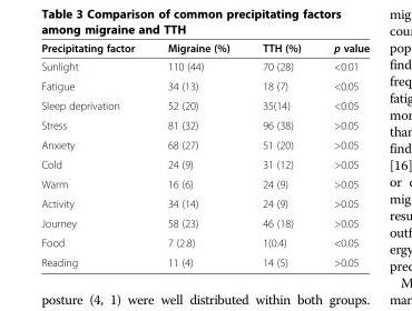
<table><thead><tr><td>Precipitating factor</td><td>Migraine (%)</td><td>TTH (%)</td><td>p value</td></tr></thead><tbody><tr><td>Sunlight</td><td>110 (44)</td><td>70 (28)</td><td>&lt;0.01</td></tr><tr><td>Fatigue</td><td>34 (13)</td><td>18 (7)</td><td>&lt;0.05</td></tr><tr><td>Sleep deprivation</td><td>52 (20)</td><td>35(14)</td><td>&lt;0.05</td></tr><tr><td>Stress</td><td>81 (32)</td><td>96 (38)</td><td>&gt;0.05</td></tr><tr><td>Anxiety</td><td>68 (27)</td><td>51 (20)</td><td>&gt;0.05</td></tr><tr><td>Cold</td><td>24 (9)</td><td>31 (12)</td><td>&gt;0.05</td></tr><tr><td>Warm</td><td>16 (6)</td><td>24 (9)</td><td>&gt;0.05</td></tr><tr><td>Activity</td><td>34 (14)</td><td>24 (9)</td><td>&gt;0.05</td></tr><tr><td>Journey</td><td>58 (23)</td><td>46 (18)</td><td>&gt;0.05</td></tr><tr><td>Food</td><td>7 (2.8)</td><td>1(0.4)</td><td>&lt;0.05</td></tr><tr><td>Reading</td><td>11 (4)</td><td>14 (5)</td><td>&gt;0.05</td></tr></tbody></table>